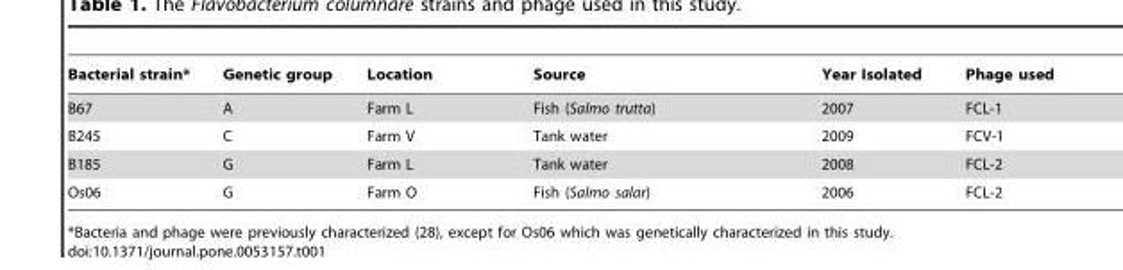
<table><thead><tr><td>Bacterial strain*</td><td>Genetic group</td><td>Location</td><td>Source</td><td>Year Isolated</td><td>Phage used</td></tr></thead><tbody><tr><td>B67</td><td>A</td><td>Farm L</td><td>Fish (Salmo trutta)</td><td>2007</td><td>FCL-1</td></tr><tr><td>B245</td><td>C</td><td>Farm V</td><td>Tank water</td><td>2009</td><td>FCV-1</td></tr><tr><td>B185</td><td>G</td><td>Farm L</td><td>Tank water</td><td>2008</td><td>FCL-2</td></tr><tr><td>Os06</td><td>G</td><td>Farm O</td><td>Fish (Salmo salar)</td><td>2006</td><td>FCL-2</td></tr></tbody></table>